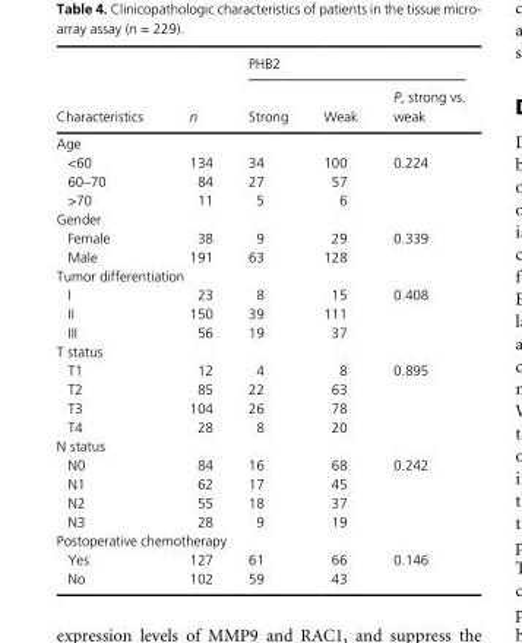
<table><thead><tr><td rowspan="2">Characteristics</td><td rowspan="2">n</td><td colspan="3">PHB2</td></tr><tr><td>Strong</td><td>Weak</td><td>P, strong vs. weak</td></tr></thead><tbody><tr><td colspan="5">Age</td></tr><tr><td>&lt;60</td><td>134</td><td>34</td><td>100</td><td rowspan="3">0.224</td></tr><tr><td>60–70</td><td>84</td><td>27</td><td>57</td></tr><tr><td>&gt;70</td><td>11</td><td>5</td><td>6</td></tr><tr><td colspan="5">Gender</td></tr><tr><td>Female</td><td>38</td><td>9</td><td>29</td><td rowspan="2">0.339</td></tr><tr><td>Male</td><td>191</td><td>63</td><td>128</td></tr><tr><td colspan="5">Tumor differentiation</td></tr><tr><td>I</td><td>23</td><td>8</td><td>15</td><td rowspan="3">0.408</td></tr><tr><td>II</td><td>150</td><td>39</td><td>111</td></tr><tr><td>III</td><td>56</td><td>19</td><td>37</td></tr><tr><td colspan="5">T status</td></tr><tr><td>T1</td><td>12</td><td>4</td><td>8</td><td>0.895</td></tr><tr><td>T2</td><td>85</td><td>22</td><td>63</td><td></td></tr><tr><td>T3</td><td>104</td><td>26</td><td>78</td><td></td></tr><tr><td>T4</td><td>28</td><td>8</td><td>20</td><td></td></tr><tr><td colspan="5">N status</td></tr><tr><td>N0</td><td>84</td><td>16</td><td>68</td><td>0.242</td></tr><tr><td>N1</td><td>62</td><td>17</td><td>45</td><td></td></tr><tr><td>N2</td><td>55</td><td>18</td><td>37</td><td></td></tr><tr><td>N3</td><td>28</td><td>9</td><td>19</td><td></td></tr><tr><td colspan="5">Postoperative chemotherapy</td></tr><tr><td>Yes</td><td>127</td><td>61</td><td>66</td><td rowspan="2">0.146</td></tr><tr><td>No</td><td>102</td><td>59</td><td>43</td></tr></tbody></table>